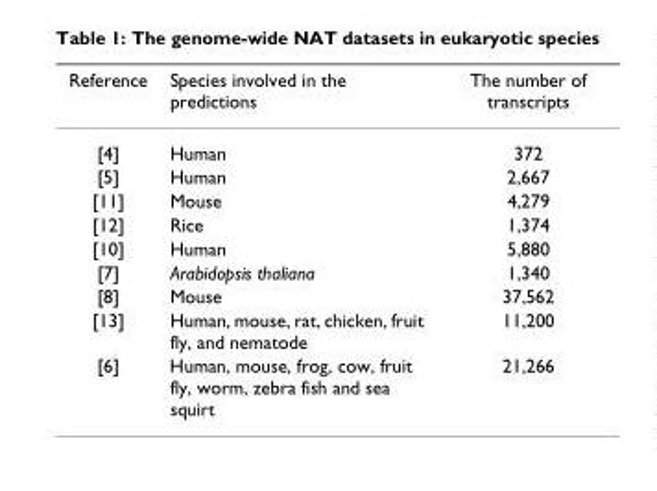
<table><thead><tr><td>Reference</td><td>Species involved in the predictions</td><td>The number of transcripts</td></tr></thead><tbody><tr><td>[4]</td><td>Human</td><td>372</td></tr><tr><td>[5]</td><td>Human</td><td>2,667</td></tr><tr><td>[11]</td><td>Mouse</td><td>4,279</td></tr><tr><td>[12]</td><td>Rice</td><td>1,374</td></tr><tr><td>[10]</td><td>Human</td><td>5,880</td></tr><tr><td>[7]</td><td>Arabidopsis thaliana</td><td>1,340</td></tr><tr><td>[8]</td><td>Mouse</td><td>37,562</td></tr><tr><td>[13]</td><td>Human, mouse, rat, chicken, fruit fly, and nematode</td><td>11,200</td></tr><tr><td>[6]</td><td>Human, mouse, frog, cow, fruit fly, worm, zebra fish and sea squirt</td><td>21,266</td></tr></tbody></table>